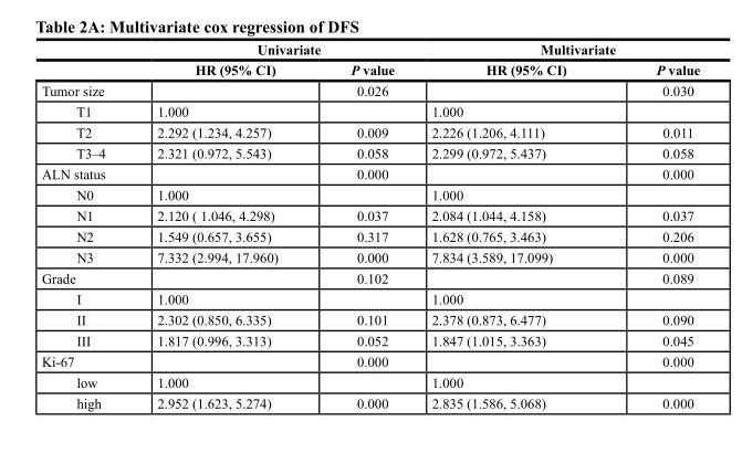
<table><thead><tr><td rowspan="2"></td><td colspan="2">Univariate</td><td colspan="2">Multivariate</td></tr><tr><td>HR (95% CI)</td><td>P value</td><td>HR (95% CI)</td><td>P value</td></tr></thead><tbody><tr><td>Tumor size</td><td></td><td>0.026</td><td></td><td>0.030</td></tr><tr><td>T1</td><td>1.000</td><td></td><td>1.000</td><td></td></tr><tr><td>T2</td><td>2.292 (1.234, 4.257)</td><td>0.009</td><td>2.226 (1.206, 4.111)</td><td>0.011</td></tr><tr><td>T3–4</td><td>2.321 (0.972, 5.543)</td><td>0.058</td><td>2.299 (0.972, 5.437)</td><td>0.058</td></tr><tr><td>ALN status</td><td></td><td>0.000</td><td></td><td>0.000</td></tr><tr><td>N0</td><td>1.000</td><td></td><td>1.000</td><td></td></tr><tr><td>N1</td><td>2.120 ( 1.046, 4.298)</td><td>0.037</td><td>2.084 (1.044, 4.158)</td><td>0.037</td></tr><tr><td>N2</td><td>1.549 (0.657, 3.655)</td><td>0.317</td><td>1.628 (0.765, 3.463)</td><td>0.206</td></tr><tr><td>N3</td><td>7.332 (2.994, 17.960)</td><td>0.000</td><td>7.834 (3.589, 17.099)</td><td>0.000</td></tr><tr><td>Grade</td><td></td><td>0.102</td><td></td><td>0.089</td></tr><tr><td>I</td><td>1.000</td><td></td><td>1.000</td><td></td></tr><tr><td>II</td><td>2.302 (0.850, 6.335)</td><td>0.101</td><td>2.378 (0.873, 6.477)</td><td>0.090</td></tr><tr><td>III</td><td>1.817 (0.996, 3.313)</td><td>0.052</td><td>1.847 (1.015, 3.363)</td><td>0.045</td></tr><tr><td>Ki-67</td><td></td><td>0.000</td><td></td><td>0.000</td></tr><tr><td>low</td><td>1.000</td><td></td><td>1.000</td><td></td></tr><tr><td>high</td><td>2.952 (1.623, 5.274)</td><td>0.000</td><td>2.835 (1.586, 5.068)</td><td>0.000</td></tr></tbody></table>